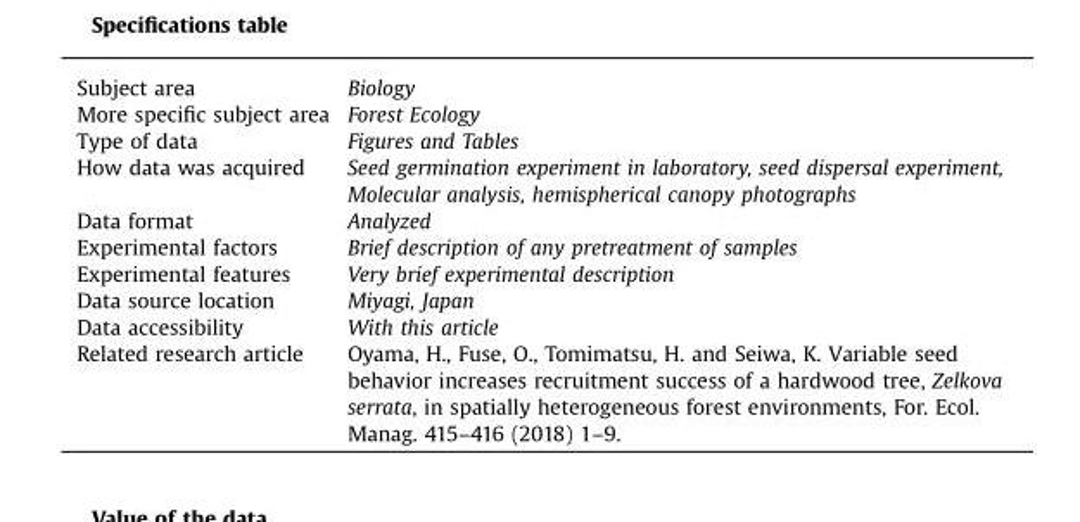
<table><tbody><tr><td>Subject area</td><td>Biology</td></tr><tr><td>More specific subject area</td><td>Forest Ecology</td></tr><tr><td>Type of data</td><td>Figures and Tables</td></tr><tr><td>How data was acquired</td><td>Seed germination experiment in laboratory, seed dispersal experiment, Molecular analysis, hemispherical canopy photographs</td></tr><tr><td>Data format</td><td>Analyzed</td></tr><tr><td>Experimental factors</td><td>Brief description of any pretreatment of samples</td></tr><tr><td>Experimental features</td><td>Very brief experimental description</td></tr><tr><td>Data source location</td><td>Miyagi, Japan</td></tr><tr><td>Data accessibility</td><td>With this article</td></tr><tr><td>Related research article</td><td>Oyama, H., Fuse, O., Tomimatsu, H. and Seiwa, K. Variable seed behavior increases recruitment success of a hardwood tree, Zelkova serrata, in spatially heterogeneous forest environments, For. Ecol. Manag. 415–416 (2018) 1–9.</td></tr></tbody></table>